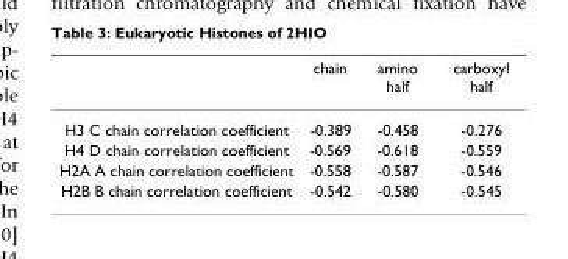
<table><thead><tr><td></td><td>chain</td><td>amino half</td><td>carboxyl half</td></tr></thead><tbody><tr><td>H3 C chain correlation coefficient</td><td>-0.389</td><td>-0.458</td><td>-0.276</td></tr><tr><td>H4 D chain correlation coefficient</td><td>-0.569</td><td>-0.618</td><td>-0.559</td></tr><tr><td>H2A A chain correlation coefficient</td><td>-0.558</td><td>-0.587</td><td>-0.546</td></tr><tr><td>H2B B chain correlation coefficient</td><td>-0.542</td><td>-0.580</td><td>-0.545</td></tr></tbody></table>